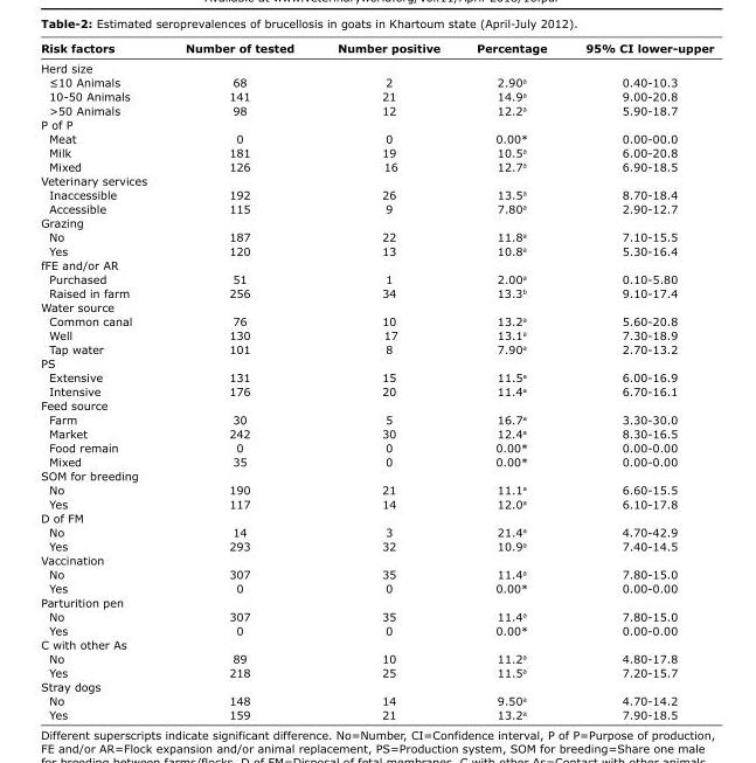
<table><thead><tr><td>Risk factors</td><td>Number of tested</td><td>Number positive</td><td>Percentage</td><td>95% CI lower-upper</td></tr></thead><tbody><tr><td colspan="5">Herd size</td></tr><tr><td>≤10 Animals</td><td>68</td><td>2</td><td>2.90<sup>a</sup></td><td>0.40-10.3</td></tr><tr><td>10-50 Animals</td><td>141</td><td>21</td><td>14.9<sup>a</sup></td><td>9.00-20.8</td></tr><tr><td>&gt;50 Animals</td><td>98</td><td>12</td><td>12.2<sup>a</sup></td><td>5.90-18.7</td></tr><tr><td colspan="5">P of P</td></tr><tr><td>Meat</td><td>0</td><td>0</td><td>0.00*</td><td>0.00-00.0</td></tr><tr><td>Milk</td><td>181</td><td>19</td><td>10.5<sup>a</sup></td><td>6.00-20.8</td></tr><tr><td>Mixed</td><td>126</td><td>16</td><td>12.7<sup>a</sup></td><td>6.90-18.5</td></tr><tr><td colspan="5">Veterinary services</td></tr><tr><td>Inaccessible</td><td>192</td><td>26</td><td>13.5<sup>a</sup></td><td>8.70-18.4</td></tr><tr><td>Accessible</td><td>115</td><td>9</td><td>7.80<sup>a</sup></td><td>2.90-12.7</td></tr><tr><td colspan="5">Grazing</td></tr><tr><td>No</td><td>187</td><td>22</td><td>11.8<sup>a</sup></td><td>7.10-15.5</td></tr><tr><td>Yes</td><td>120</td><td>13</td><td>10.8<sup>a</sup></td><td>5.30-16.4</td></tr><tr><td colspan="5">fFE and/or AR</td></tr><tr><td>Purchased</td><td>51</td><td>1</td><td>2.00<sup>a</sup></td><td>0.10-5.80</td></tr><tr><td>Raised in farm</td><td>256</td><td>34</td><td>13.3<sup>b</sup></td><td>9.10-17.4</td></tr><tr><td colspan="5">Water source</td></tr><tr><td>Common canal</td><td>76</td><td>10</td><td>13.2<sup>a</sup></td><td>5.60-20.8</td></tr><tr><td>Well</td><td>130</td><td>17</td><td>13.1<sup>a</sup></td><td>7.30-18.9</td></tr><tr><td>Tap water</td><td>101</td><td>8</td><td>7.90<sup>a</sup></td><td>2.70-13.2</td></tr><tr><td colspan="5">PS</td></tr><tr><td>Extensive</td><td>131</td><td>15</td><td>11.5<sup>a</sup></td><td>6.00-16.9</td></tr><tr><td>Intensive</td><td>176</td><td>20</td><td>11.4<sup>a</sup></td><td>6.70-16.1</td></tr><tr><td colspan="5">Feed source</td></tr><tr><td>Farm</td><td>30</td><td>5</td><td>16.7<sup>a</sup></td><td>3.30-30.0</td></tr><tr><td>Market</td><td>242</td><td>30</td><td>12.4<sup>a</sup></td><td>8.30-16.5</td></tr><tr><td>Food remain</td><td>0</td><td>0</td><td>0.00*</td><td>0.00-0.00</td></tr><tr><td>Mixed</td><td>35</td><td>0</td><td>0.00*</td><td>0.00-0.00</td></tr><tr><td colspan="5">SOM for breeding</td></tr><tr><td>No</td><td>190</td><td>21</td><td>11.1<sup>a</sup></td><td>6.60-15.5</td></tr><tr><td>Yes</td><td>117</td><td>14</td><td>12.0<sup>a</sup></td><td>6.10-17.8</td></tr><tr><td colspan="5">D of FM</td></tr><tr><td>No</td><td>14</td><td>3</td><td>21.4<sup>a</sup></td><td>4.70-42.9</td></tr><tr><td>Yes</td><td>293</td><td>32</td><td>10.9<sup>a</sup></td><td>7.40-14.5</td></tr><tr><td colspan="5">Vaccination</td></tr><tr><td>No</td><td>307</td><td>35</td><td>11.4<sup>a</sup></td><td>7.80-15.0</td></tr><tr><td>Yes</td><td>0</td><td>0</td><td>0.00*</td><td>0.00-0.00</td></tr><tr><td colspan="5">Parturition pen</td></tr><tr><td>No</td><td>307</td><td>35</td><td>11.4<sup>a</sup></td><td>7.80-15.0</td></tr><tr><td>Yes</td><td>0</td><td>0</td><td>0.00*</td><td>0.00-0.00</td></tr><tr><td colspan="5">C with other As</td></tr><tr><td>No</td><td>89</td><td>10</td><td>11.2<sup>a</sup></td><td>4.80-17.8</td></tr><tr><td>Yes</td><td>218</td><td>25</td><td>11.5<sup>a</sup></td><td>7.20-15.7</td></tr><tr><td colspan="5">Stray dogs</td></tr><tr><td>No</td><td>148</td><td>14</td><td>9.50<sup>a</sup></td><td>4.70-14.2</td></tr><tr><td>Yes</td><td>159</td><td>21</td><td>13.2<sup>a</sup></td><td>7.90-18.5</td></tr></tbody></table>